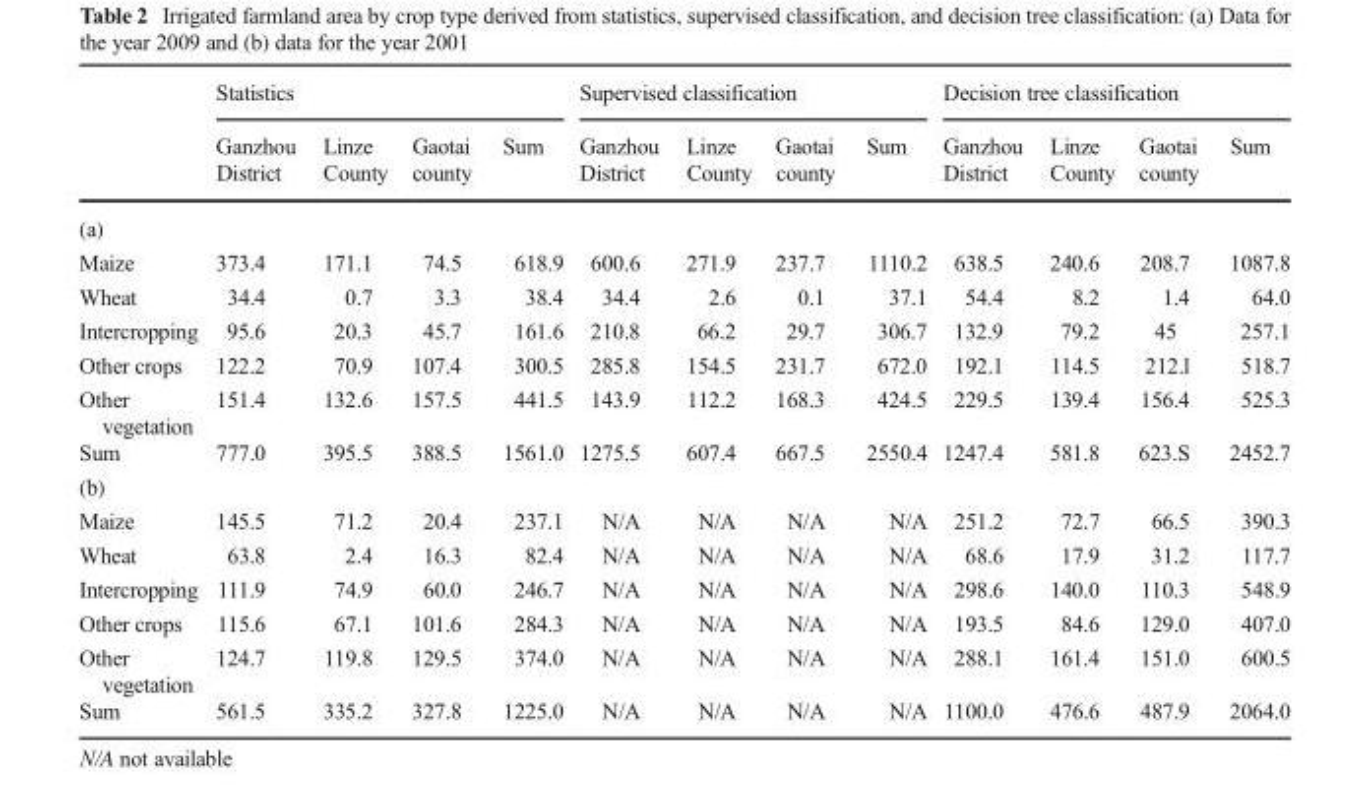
<table><thead><tr><td rowspan="2"></td><td colspan="4">Statistics</td><td colspan="4">Supervised classification</td><td colspan="4">Decision tree classification</td></tr><tr><td>Ganzhou District</td><td>Linze County</td><td>Gaotai county</td><td>Sum</td><td>Ganzhou District</td><td>Linze County</td><td>Gaotai county</td><td>Sum</td><td>Ganzhou District</td><td>Linze County</td><td>Gaotai county</td><td>Sum</td></tr></thead><tbody><tr><td colspan="13">(a)</td></tr><tr><td>Maize</td><td>373.4</td><td>171.1</td><td>74.5</td><td>618.9</td><td>600.6</td><td>271.9</td><td>237.7</td><td>1110.2</td><td>638.5</td><td>240.6</td><td>208.7</td><td>1087.8</td></tr><tr><td>Wheat</td><td>34.4</td><td>0.7</td><td>3.3</td><td>38.4</td><td>34.4</td><td>2.6</td><td>0.1</td><td>37.1</td><td>54.4</td><td>8.2</td><td>1.4</td><td>64.0</td></tr><tr><td>Intercropping</td><td>95.6</td><td>20.3</td><td>45.7</td><td>161.6</td><td>210.8</td><td>66.2</td><td>29.7</td><td>306.7</td><td>132.9</td><td>79.2</td><td>45</td><td>257.1</td></tr><tr><td>Other crops</td><td>122.2</td><td>70.9</td><td>107.4</td><td>300.5</td><td>285.8</td><td>154.5</td><td>231.7</td><td>672.0</td><td>192.1</td><td>114.5</td><td>212.l</td><td>518.7</td></tr><tr><td>Other vegetation</td><td>151.4</td><td>132.6</td><td>157.5</td><td>441.5</td><td>143.9</td><td>112.2</td><td>168.3</td><td>424.5</td><td>229.5</td><td>139.4</td><td>156.4</td><td>525.3</td></tr><tr><td>Sum</td><td>777.0</td><td>395.5</td><td>388.5</td><td>1561.0</td><td>1275.5</td><td>607.4</td><td>667.5</td><td>2550.4</td><td>1247.4</td><td>581.8</td><td>623.S</td><td>2452.7</td></tr><tr><td colspan="13">(b)</td></tr><tr><td>Maize</td><td>145.5</td><td>71.2</td><td>20.4</td><td>237.1</td><td>N/A</td><td>N/A</td><td>N/A</td><td>N/A</td><td>251.2</td><td>72.7</td><td>66.5</td><td>390.3</td></tr><tr><td>Wheat</td><td>63.8</td><td>2.4</td><td>16.3</td><td>82.4</td><td>N/A</td><td>N/A</td><td>N/A</td><td>N/A</td><td>68.6</td><td>17.9</td><td>31.2</td><td>117.7</td></tr><tr><td>Intercropping</td><td>111.9</td><td>74.9</td><td>60.0</td><td>246.7</td><td>N/A</td><td>N/A</td><td>N/A</td><td>N/A</td><td>298.6</td><td>140.0</td><td>110.3</td><td>548.9</td></tr><tr><td>Other crops</td><td>115.6</td><td>67.1</td><td>101.6</td><td>284.3</td><td>N/A</td><td>N/A</td><td>N/A</td><td>N/A</td><td>193.5</td><td>84.6</td><td>129.0</td><td>407.0</td></tr><tr><td>Other vegetation</td><td>124.7</td><td>119.8</td><td>129.5</td><td>374.0</td><td>N/A</td><td>N/A</td><td>N/A</td><td>N/A</td><td>288.1</td><td>161.4</td><td>151.0</td><td>600.5</td></tr><tr><td>Sum</td><td>561.5</td><td>335.2</td><td>327.8</td><td>1225.0</td><td>N/A</td><td>N/A</td><td>N/A</td><td>N/A</td><td>1100.0</td><td>476.6</td><td>487.9</td><td>2064.0</td></tr></tbody></table>